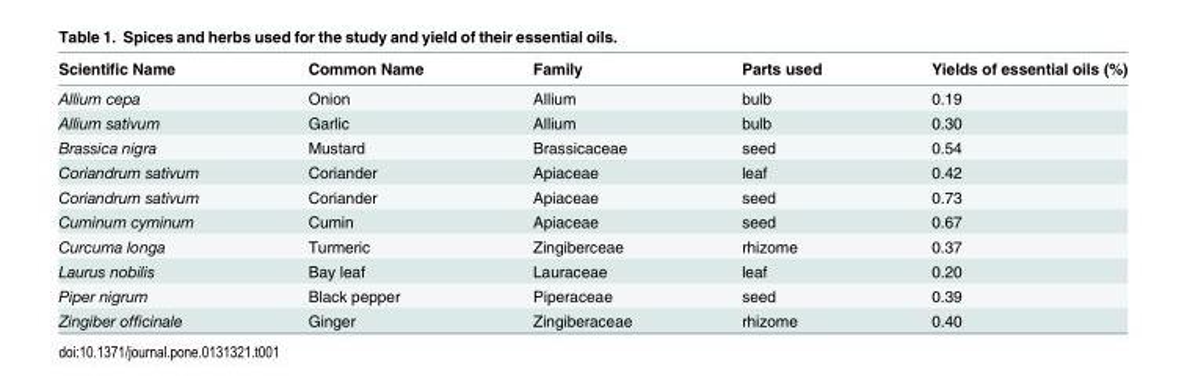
<table><thead><tr><td>Scientific Name</td><td>Common Name</td><td>Family</td><td>Parts used</td><td>Yields of essential oils (%)</td></tr></thead><tbody><tr><td>Allium cepa</td><td>Onion</td><td>Allium</td><td>bulb</td><td>0.19</td></tr><tr><td>Allium sativum</td><td>Garlic</td><td>Allium</td><td>bulb</td><td>0.30</td></tr><tr><td>Brassica nigra</td><td>Mustard</td><td>Brassicaceae</td><td>seed</td><td>0.54</td></tr><tr><td>Coriandrum sativum</td><td>Coriander</td><td>Apiaceae</td><td>leaf</td><td>0.42</td></tr><tr><td>Coriandrum sativum</td><td>Coriander</td><td>Apiaceae</td><td>seed</td><td>0.73</td></tr><tr><td>Cuminum cyminum</td><td>Cumin</td><td>Apiaceae</td><td>seed</td><td>0.67</td></tr><tr><td>Curcuma longa</td><td>Turmeric</td><td>Zingiberceae</td><td>rhizome</td><td>0.37</td></tr><tr><td>Laurus nobilis</td><td>Bay leaf</td><td>Lauraceae</td><td>leaf</td><td>0.20</td></tr><tr><td>Piper nigrum</td><td>Black pepper</td><td>Piperaceae</td><td>seed</td><td>0.39</td></tr><tr><td>Zingiber officinale</td><td>Ginger</td><td>Zingiberaceae</td><td>rhizome</td><td>0.40</td></tr></tbody></table>